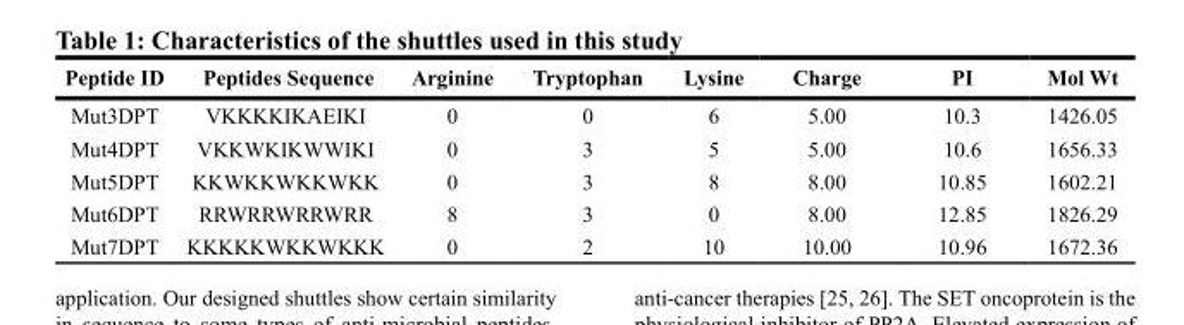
<table><thead><tr><td>Peptide ID</td><td>Peptides Sequence</td><td>Arginine</td><td>Tryptophan</td><td>Lysine</td><td>Charge</td><td>PI</td><td>Mol Wt</td></tr></thead><tbody><tr><td>Mut3DPT</td><td>VKKKKIKAEIKI</td><td>0</td><td>0</td><td>6</td><td>5.00</td><td>10.3</td><td>1426.05</td></tr><tr><td>Mut4DPT</td><td>VKKWKIKWWIKI</td><td>0</td><td>3</td><td>5</td><td>5.00</td><td>10.6</td><td>1656.33</td></tr><tr><td>Mut5DPT</td><td>KKWKKWKKWKK</td><td>0</td><td>3</td><td>8</td><td>8.00</td><td>10.85</td><td>1602.21</td></tr><tr><td>Mut6DPT</td><td>RRWRRWRRWRR</td><td>8</td><td>3</td><td>0</td><td>8.00</td><td>12.85</td><td>1826.29</td></tr><tr><td>Mut7DPT</td><td>KKKKKWKKWKKK</td><td>0</td><td>2</td><td>10</td><td>10.00</td><td>10.96</td><td>1672.36</td></tr></tbody></table>